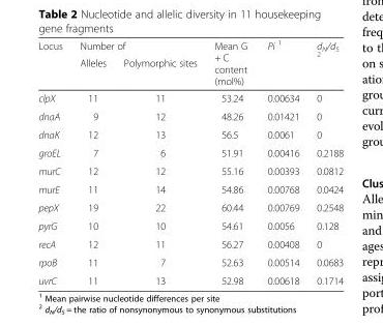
<table><thead><tr><td rowspan="2">Locus</td><td colspan="2">Number of</td><td rowspan="2">Mean G + C content (mol%)</td><td rowspan="2">Pi <sup>1</sup></td><td rowspan="2">d<sub>N</sub>/d<sub>S</sub> <sup>2</sup></td></tr><tr><td>Alleles</td><td>Polymorphic sites</td></tr></thead><tbody><tr><td>clpX</td><td>11</td><td>11</td><td>53.24</td><td>0.00634</td><td>0</td></tr><tr><td>dnaA</td><td>9</td><td>12</td><td>48.26</td><td>0.01421</td><td>0</td></tr><tr><td>dnaK</td><td>12</td><td>13</td><td>56.5</td><td>0.0061</td><td>0</td></tr><tr><td>groEL</td><td>7</td><td>6</td><td>51.91</td><td>0.00416</td><td>0.2188</td></tr><tr><td>murC</td><td>12</td><td>12</td><td>55.16</td><td>0.00393</td><td>0.0812</td></tr><tr><td>murE</td><td>11</td><td>14</td><td>54.86</td><td>0.00768</td><td>0.0424</td></tr><tr><td>pepX</td><td>19</td><td>22</td><td>60.44</td><td>0.00769</td><td>0.2548</td></tr><tr><td>pyrG</td><td>10</td><td>10</td><td>54.61</td><td>0.0056</td><td>0.128</td></tr><tr><td>recA</td><td>12</td><td>11</td><td>56.27</td><td>0.00408</td><td>0</td></tr><tr><td>rpoB</td><td>11</td><td>7</td><td>52.63</td><td>0.00514</td><td>0.0683</td></tr><tr><td>uvrC</td><td>11</td><td>13</td><td>52.98</td><td>0.00618</td><td>0.1714</td></tr></tbody></table>